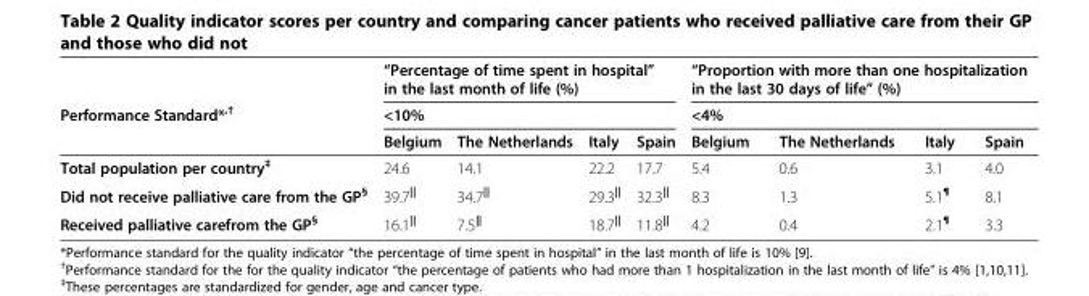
<table><thead><tr><td rowspan="3">Performance Standard*<sup>,†</sup></td><td rowspan="2" colspan="4">“Percentage of time spent in hospital” in the last month of life (%) &lt;10%</td><td rowspan="2" colspan="4">“Proportion with more than one hospitalization in the last 30 days of life” (%) &lt;4%</td></tr><tr></tr><tr><td>Belgium</td><td>The Netherlands</td><td>Italy</td><td>Spain</td><td>Belgium</td><td>The Netherlands</td><td>Italy</td><td>Spain</td></tr></thead><tbody><tr><td>Total population per country<sup>‡</sup></td><td>24.6</td><td>14.1</td><td>22.2</td><td>17.7</td><td>5.4</td><td>0.6</td><td>3.1</td><td>4.0</td></tr><tr><td>Did not receive palliative care from the GP<sup>§</sup></td><td>39.7<sup>||</sup></td><td>34.7<sup>||</sup></td><td>29.3<sup>||</sup></td><td>32.3<sup>||</sup></td><td>8.3</td><td>1.3</td><td>5.1<sup>¶</sup></td><td>8.1</td></tr><tr><td>Received palliative carefrom the GP<sup>§</sup></td><td>16.1<sup>||</sup></td><td>7.5<sup>||</sup></td><td>18.7<sup>||</sup></td><td>11.8<sup>||</sup></td><td>4.2</td><td>0.4</td><td>2.1<sup>¶</sup></td><td>3.3</td></tr></tbody></table>